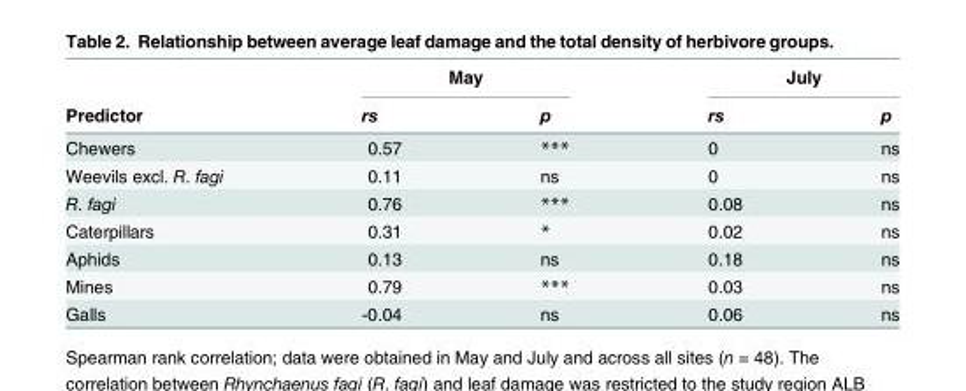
<table><thead><tr><td rowspan="2">Predictor</td><td colspan="2">May</td><td colspan="2">July</td></tr><tr><td>rs</td><td>p</td><td>rs</td><td>p</td></tr></thead><tbody><tr><td>Chewers</td><td>0.57</td><td>***</td><td>0</td><td>ns</td></tr><tr><td>Weevils excl. R. fagi</td><td>0.11</td><td>ns</td><td>0</td><td>ns</td></tr><tr><td>R. fagi</td><td>0.76</td><td>***</td><td>0.08</td><td>ns</td></tr><tr><td>Caterpillars</td><td>0.31</td><td>*</td><td>0.02</td><td>ns</td></tr><tr><td>Aphids</td><td>0.13</td><td>ns</td><td>0.18</td><td>ns</td></tr><tr><td>Mines</td><td>0.79</td><td>***</td><td>0.03</td><td>ns</td></tr><tr><td>Galls</td><td>-0.04</td><td>ns</td><td>0.06</td><td>ns</td></tr></tbody></table>